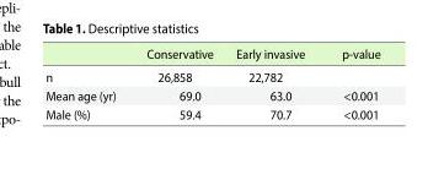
<table><thead><tr><td></td><td>Conservative</td><td>Early invasive</td><td>p-value</td></tr></thead><tbody><tr><td>n</td><td>26,858</td><td>22,782</td><td></td></tr><tr><td>Mean age (yr)</td><td>69.0</td><td>63.0</td><td>&lt;0.001</td></tr><tr><td>Male (%)</td><td>59.4</td><td>70.7</td><td>&lt;0.001</td></tr></tbody></table>